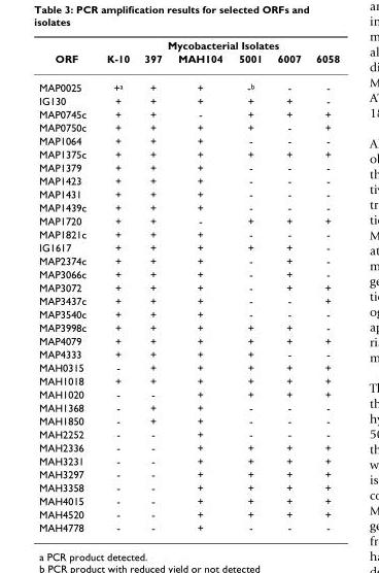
<table><thead><tr><td rowspan="2">ORF</td><td colspan="6">Mycobacterial Isolates</td></tr><tr><td>K-10</td><td>397</td><td>MAH104</td><td>5001</td><td>6007</td><td>6058</td></tr></thead><tbody><tr><td>MAP0025</td><td>+<sup>a</sup></td><td>+</td><td>+</td><td>-<sup>b</sup></td><td>-</td><td>-</td></tr><tr><td>IG130</td><td>+</td><td>+</td><td>+</td><td>+</td><td>+</td><td>-</td></tr><tr><td>MAP0745c</td><td>+</td><td>+</td><td>-</td><td>+</td><td>+</td><td>+</td></tr><tr><td>MAP0750c</td><td>+</td><td>+</td><td>+</td><td>+</td><td>-</td><td>+</td></tr><tr><td>MAP1064</td><td>+</td><td>+</td><td>+</td><td>-</td><td>-</td><td>-</td></tr><tr><td>MAP1375c</td><td>+</td><td>+</td><td>+</td><td>+</td><td>+</td><td>+</td></tr><tr><td>MAP1379</td><td>+</td><td>+</td><td>+</td><td>-</td><td>-</td><td>-</td></tr><tr><td>MAP1423</td><td>+</td><td>+</td><td>+</td><td>-</td><td>-</td><td>-</td></tr><tr><td>MAP1431</td><td>+</td><td>+</td><td>+</td><td>-</td><td>-</td><td>-</td></tr><tr><td>MAP1439c</td><td>+</td><td>+</td><td>+</td><td>-</td><td>-</td><td>-</td></tr><tr><td>MAP1720</td><td>+</td><td>+</td><td>-</td><td>+</td><td>+</td><td>+</td></tr><tr><td>MAP1821c</td><td>+</td><td>+</td><td>+</td><td>-</td><td>-</td><td>-</td></tr><tr><td>IG1617</td><td>+</td><td>+</td><td>+</td><td>+</td><td>+</td><td>-</td></tr><tr><td>MAP2374c</td><td>+</td><td>+</td><td>+</td><td>-</td><td>+</td><td>-</td></tr><tr><td>MAP3066c</td><td>+</td><td>+</td><td>+</td><td>-</td><td>+</td><td>-</td></tr><tr><td>MAP3072</td><td>+</td><td>+</td><td>+</td><td>-</td><td>+</td><td>+</td></tr><tr><td>MAP3437c</td><td>+</td><td>+</td><td>+</td><td>-</td><td>-</td><td>+</td></tr><tr><td>MAP3540c</td><td>+</td><td>+</td><td>+</td><td>-</td><td>-</td><td>-</td></tr><tr><td>MAP3998c</td><td>+</td><td>+</td><td>+</td><td>+</td><td>+</td><td>-</td></tr><tr><td>MAP4079</td><td>+</td><td>+</td><td>+</td><td>+</td><td>+</td><td>+</td></tr><tr><td>MAP4333</td><td>+</td><td>+</td><td>+</td><td>+</td><td>-</td><td>-</td></tr><tr><td>MAH0315</td><td>-</td><td>+</td><td>+</td><td>+</td><td>+</td><td>+</td></tr><tr><td>MAH1018</td><td>+</td><td>+</td><td>+</td><td>+</td><td>+</td><td>+</td></tr><tr><td>MAH1020</td><td>-</td><td>-</td><td>+</td><td>+</td><td>+</td><td>+</td></tr><tr><td>MAH1368</td><td>-</td><td>+</td><td>+</td><td>-</td><td>-</td><td>-</td></tr><tr><td>MAH1850</td><td>-</td><td>+</td><td>+</td><td>-</td><td>-</td><td>-</td></tr><tr><td>MAH2252</td><td>-</td><td>-</td><td>+</td><td>-</td><td>-</td><td>-</td></tr><tr><td>MAH2336</td><td>-</td><td>-</td><td>+</td><td>+</td><td>+</td><td>+</td></tr><tr><td>MAH3231</td><td>-</td><td>-</td><td>+</td><td>+</td><td>+</td><td>+</td></tr><tr><td>MAH3297</td><td>-</td><td>-</td><td>+</td><td>+</td><td>+</td><td>+</td></tr><tr><td>MAH3358</td><td>-</td><td>-</td><td>+</td><td>+</td><td>+</td><td>+</td></tr><tr><td>MAH4015</td><td>-</td><td>-</td><td>+</td><td>+</td><td>+</td><td>+</td></tr><tr><td>MAH4520</td><td>-</td><td>-</td><td>+</td><td>+</td><td>+</td><td>+</td></tr><tr><td>MAH4778</td><td>-</td><td>-</td><td>+</td><td>-</td><td>-</td><td>-</td></tr></tbody></table>